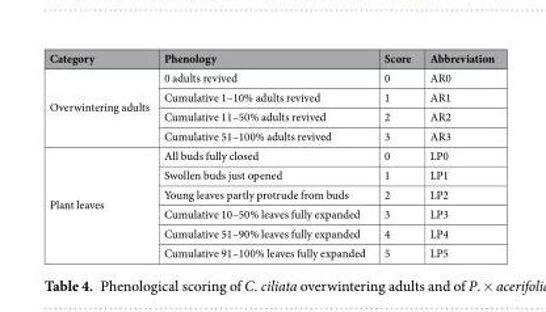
<table><thead><tr><td>Category</td><td>Phenology</td><td>Score</td><td>Abbreviation</td></tr></thead><tbody><tr><td rowspan="4">Overwintering adults</td><td>0 adults revived</td><td>0</td><td>AR0</td></tr><tr><td>Cumulative 1–10% adults revived</td><td>1</td><td>AR1</td></tr><tr><td>Cumulative 11–50% adults revived</td><td>2</td><td>AR2</td></tr><tr><td>Cumulative 51–100% adults revived</td><td>3</td><td>AR3</td></tr><tr><td rowspan="6">Plant leaves</td><td>All buds fully closed</td><td>0</td><td>LP0</td></tr><tr><td>Swollen buds just opened</td><td>1</td><td>LP1</td></tr><tr><td>Young leaves partly protrude from buds</td><td>2</td><td>LP2</td></tr><tr><td>Cumulative 10–50% leaves fully expanded</td><td>3</td><td>LP3</td></tr><tr><td>Cumulative 51–90% leaves fully expanded</td><td>4</td><td>LP4</td></tr><tr><td>Cumulative 91–100% leaves fully expanded</td><td>5</td><td>LP5</td></tr></tbody></table>